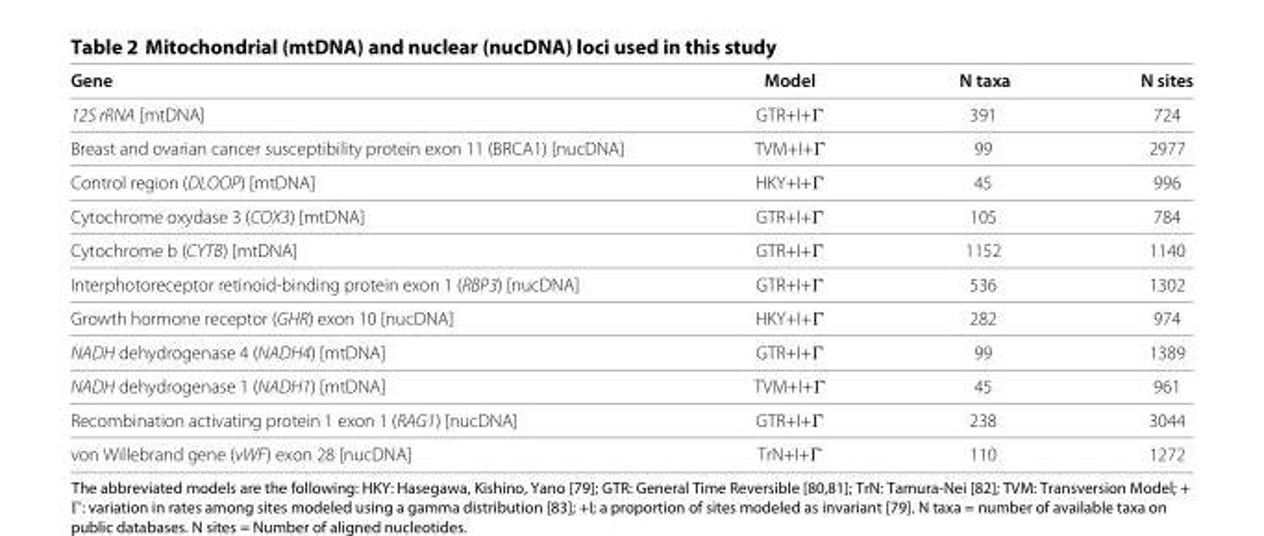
<table><thead><tr><td>Gene</td><td>Model</td><td>N taxa</td><td>N sites</td></tr></thead><tbody><tr><td>12S rRNA [mtDNA]</td><td>GTR+I+Γ</td><td>391</td><td>724</td></tr><tr><td>Breast and ovarian cancer susceptibility protein exon 11 (BRCA1) [nucDNA]</td><td>TVM+I+Γ</td><td>99</td><td>2977</td></tr><tr><td>Control region (DLOOP) [mtDNA]</td><td>HKY+I+Γ</td><td>45</td><td>996</td></tr><tr><td>Cytochrome oxydase 3 (COX3) [mtDNA]</td><td>GTR+I+Γ</td><td>105</td><td>784</td></tr><tr><td>Cytochrome b (CYTB) [mtDNA]</td><td>GTR+I+Γ</td><td>1152</td><td>1140</td></tr><tr><td>Interphotoreceptor retinoid-binding protein exon 1 (RBP3) [nucDNA]</td><td>GTR+I+Γ</td><td>536</td><td>1302</td></tr><tr><td>Growth hormone receptor (GHR) exon 10 [nucDNA]</td><td>HKY+I+Γ</td><td>282</td><td>974</td></tr><tr><td>NADH dehydrogenase 4 (NADH4) [mtDNA]</td><td>GTR+I+Γ</td><td>99</td><td>1389</td></tr><tr><td>NADH dehydrogenase 1 (NADH1) [mtDNA]</td><td>TVM+I+Γ</td><td>45</td><td>961</td></tr><tr><td>Recombination activating protein 1 exon 1 (RAG1) [nucDNA]</td><td>GTR+I+Γ</td><td>238</td><td>3044</td></tr><tr><td>von Willebrand gene (vWF) exon 28 [nucDNA]</td><td>TrN+I+Γ</td><td>110</td><td>1272</td></tr></tbody></table>